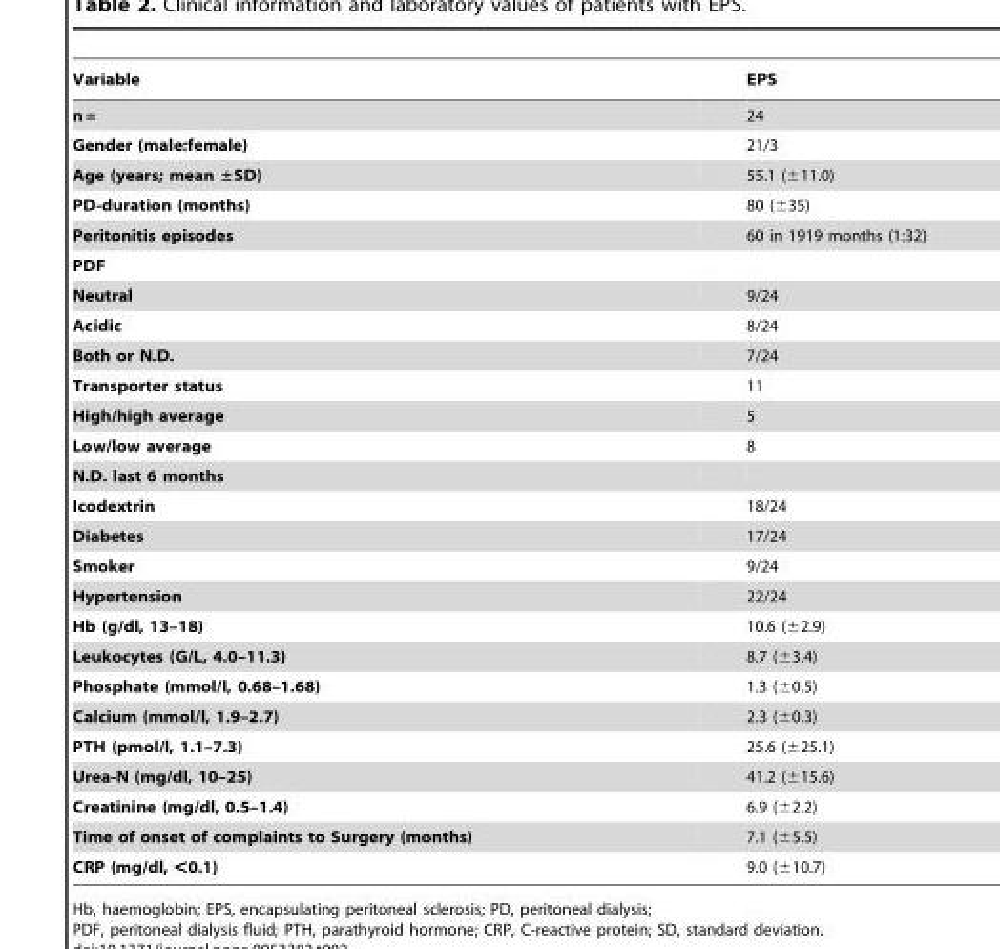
<table><thead><tr><td>Variable</td><td>EPS</td></tr></thead><tbody><tr><td>n =</td><td>24</td></tr><tr><td>Gender (male:female)</td><td>21/3</td></tr><tr><td>Age (years; mean ±SD)</td><td>55.1 (±11.0)</td></tr><tr><td>PD-duration (months)</td><td>80 (±35)</td></tr><tr><td>Peritonitis episodes</td><td>60 in 1919 months (1:32)</td></tr><tr><td colspan="2">PDF</td></tr><tr><td>Neutral</td><td>9/24</td></tr><tr><td>Acidic</td><td>8/24</td></tr><tr><td>Both or N.D.</td><td>7/24</td></tr><tr><td>Transporter status</td><td>11</td></tr><tr><td>High/high average</td><td>5</td></tr><tr><td>Low/low average</td><td>8</td></tr><tr><td colspan="2">N.D. last 6 months</td></tr><tr><td>Icodextrin</td><td>18/24</td></tr><tr><td>Diabetes</td><td>17/24</td></tr><tr><td>Smoker</td><td>9/24</td></tr><tr><td>Hypertension</td><td>22/24</td></tr><tr><td>Hb (g/dl, 13–18)</td><td>10.6 (±2.9)</td></tr><tr><td>Leukocytes (G/L, 4.0–11.3)</td><td>8.7 (±3.4)</td></tr><tr><td>Phosphate (mmol/l, 0.68–1.68)</td><td>1.3 (±0.5)</td></tr><tr><td>Calcium (mmol/l, 1.9–2.7)</td><td>2.3 (±0.3)</td></tr><tr><td>PTH (pmol/l, 1.1–7.3)</td><td>25.6 (±25.1)</td></tr><tr><td>Urea-N (mg/dl, 10–25)</td><td>41.2 (±15.6)</td></tr><tr><td>Creatinine (mg/dl, 0.5–1.4)</td><td>6.9 (±2.2)</td></tr><tr><td>Time of onset of complaints to Surgery (months)</td><td>7.1 (±5.5)</td></tr><tr><td>CRP (mg/dl, &lt;0.1)</td><td>9.0 (±10.7)</td></tr></tbody></table>